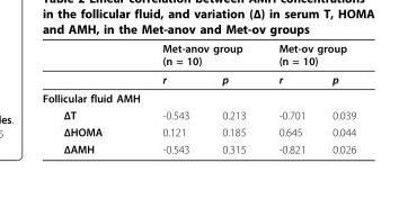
<table><thead><tr><td rowspan="2"></td><td colspan="2">Met-anov group (n = 10)</td><td colspan="2">Met-ov group (n = 10)</td></tr><tr><td>r</td><td>p</td><td>r</td><td>p</td></tr></thead><tbody><tr><td colspan="5">Follicular fluid AMH</td></tr><tr><td>ΔT</td><td>-0.543</td><td>0.213</td><td>-0.701</td><td>0.039</td></tr><tr><td>ΔHOMA</td><td>0.121</td><td>0.185</td><td>0.645</td><td>0.044</td></tr><tr><td>ΔAMH</td><td>-0.543</td><td>0.315</td><td>-0.821</td><td>0.026</td></tr></tbody></table>